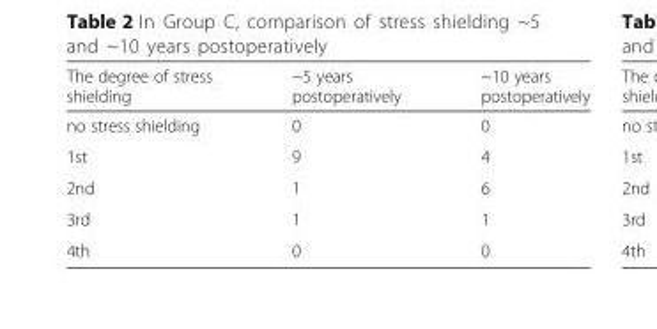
<table><thead><tr><td>The degree of stress shielding</td><td>~5 years postoperatively</td><td>~10 years postoperatively</td></tr></thead><tbody><tr><td>no stress shielding</td><td>0</td><td>0</td></tr><tr><td>1st</td><td>9</td><td>4</td></tr><tr><td>2nd</td><td>1</td><td>6</td></tr><tr><td>3rd</td><td>1</td><td>1</td></tr><tr><td>4th</td><td>0</td><td>0</td></tr></tbody></table>